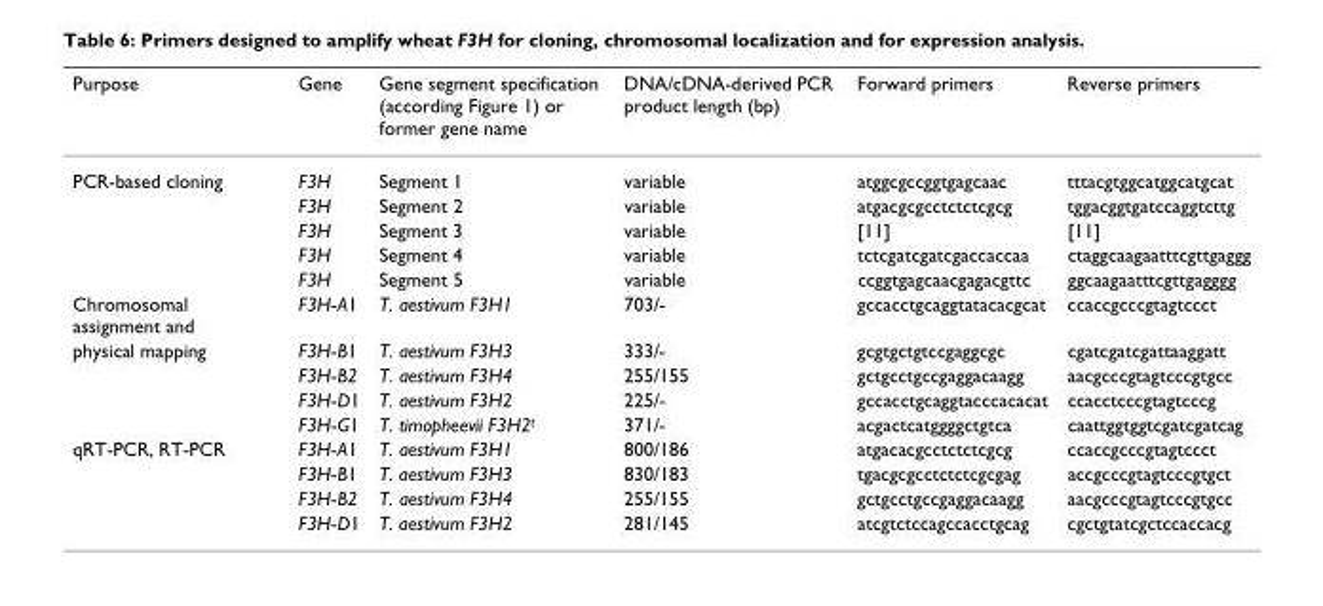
<table><thead><tr><td>Purpose</td><td>Gene</td><td>Gene segment specification (according Figure 1) or former gene name</td><td>DNA/cDNA-derived PCR product length (bp)</td><td>Forward primers</td><td>Reverse primers</td></tr></thead><tbody><tr><td rowspan="5">PCR-based cloning</td><td>F3H</td><td>Segment 1</td><td>variable</td><td>atggcgccggtgagcaac</td><td>tttacgtggcatggcatgcat</td></tr><tr><td>F3H</td><td>Segment 2</td><td>variable</td><td>atgacgcgcctctctcgcg</td><td>tggacggtgatccaggtcttg</td></tr><tr><td>F3H</td><td>Segment 3</td><td>variable</td><td>[11]</td><td>[11]</td></tr><tr><td>F3H</td><td>Segment 4</td><td>variable</td><td>tctcgatcgatcgaccaccaa</td><td>ctaggcaagaatttcgttgaggg</td></tr><tr><td>F3H</td><td>Segment 5</td><td>variable</td><td>ccggtgagcaacgagacgttc</td><td>ggcaagaatttcgttgagggg</td></tr><tr><td>Chromosomal assignment and</td><td>F3H-A1</td><td>T. aestivum F3H1</td><td>703/-</td><td>gccacctgcaggtatacacgcat</td><td>ccaccgcccgtagtccct</td></tr><tr><td rowspan="4">physical mapping</td><td>F3H-B1</td><td>T. aestivum F3H3</td><td>333/-</td><td>gcgtgctgtccgaggcgc</td><td>cgatcgatcgattaaggatt</td></tr><tr><td>F3H-B2</td><td>T. aestivum F3H4</td><td>255/155</td><td>gctgcctgccgaggacaagg</td><td>aacgcccgtagtcccgtgcc</td></tr><tr><td>F3H-D1</td><td>T. aestivum F3H2</td><td>225/-</td><td>gccacctgcaggtacccacacat</td><td>ccacctcccgtagtcccg</td></tr><tr><td>F3H-G1</td><td>T. timopheevii F3H2<sup>t</sup></td><td>371/-</td><td>acgactcatggggctgtca</td><td>caattggtggtcgatcgatcag</td></tr><tr><td rowspan="4">qRT-PCR, RT-PCR</td><td>F3H-A1</td><td>T. aestivum F3H1</td><td>800/186</td><td>atgacacgcctctctcgcg</td><td>ccaccgcccgtagtccct</td></tr><tr><td>F3H-B1</td><td>T. aestivum F3H3</td><td>830/183</td><td>tgacgcgcctctctcgcgag</td><td>accgcccgtagtcccgtgct</td></tr><tr><td>F3H-B2</td><td>T. aestivum F3H4</td><td>255/155</td><td>gctgcctgccgaggacaagg</td><td>aacgcccgtagtcccgtgcc</td></tr><tr><td>F3H-D1</td><td>T. aestivum F3H2</td><td>281/145</td><td>atcgtctccagccacctgcag</td><td>cgctgtatcgctccaccacg</td></tr></tbody></table>